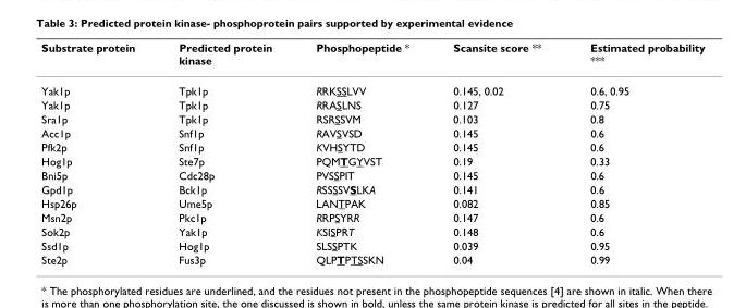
<table><thead><tr><td>Substrate protein</td><td>Predicted protein kinase</td><td>Phosphopeptide *</td><td>Scansite score **</td><td>Estimated probability ***</td></tr></thead><tbody><tr><td>Yak1p</td><td>Tpk1p</td><td>RRKSSLVV</td><td>0.145, 0.02</td><td>0.6, 0.95</td></tr><tr><td>Yak1p</td><td>Tpk1p</td><td>RRASLNS</td><td>0.127</td><td>0.75</td></tr><tr><td>Sra1p</td><td>Tpk1p</td><td>RSRSSVM</td><td>0.103</td><td>0.8</td></tr><tr><td>Acc1p</td><td>Snf1p</td><td>RAVSVSD</td><td>0.145</td><td>0.6</td></tr><tr><td>Pfk2p</td><td>Snf1p</td><td>KVHSYTD</td><td>0.145</td><td>0.6</td></tr><tr><td>Hog1p</td><td>Ste7p</td><td>PQMTGYVST</td><td>0.19</td><td>0.33</td></tr><tr><td>Bni5p</td><td>Cdc28p</td><td>PVSSPIT</td><td>0.145</td><td>0.6</td></tr><tr><td>Gpd1p</td><td>Bck1p</td><td>RSSSSVSLKA</td><td>0.141</td><td>0.6</td></tr><tr><td>Hsp26p</td><td>Ume5p</td><td>LANTPAK</td><td>0.082</td><td>0.85</td></tr><tr><td>Msn2p</td><td>Pkc1p</td><td>RRPSYRR</td><td>0.147</td><td>0.6</td></tr><tr><td>Sok2p</td><td>Yak1p</td><td>KSISPRT</td><td>0.148</td><td>0.6</td></tr><tr><td>Ssd1p</td><td>Hog1p</td><td>SLSSPTK</td><td>0.039</td><td>0.95</td></tr><tr><td>Ste2p</td><td>Fus3p</td><td>QLPTPTSSKN</td><td>0.04</td><td>0.99</td></tr></tbody></table>